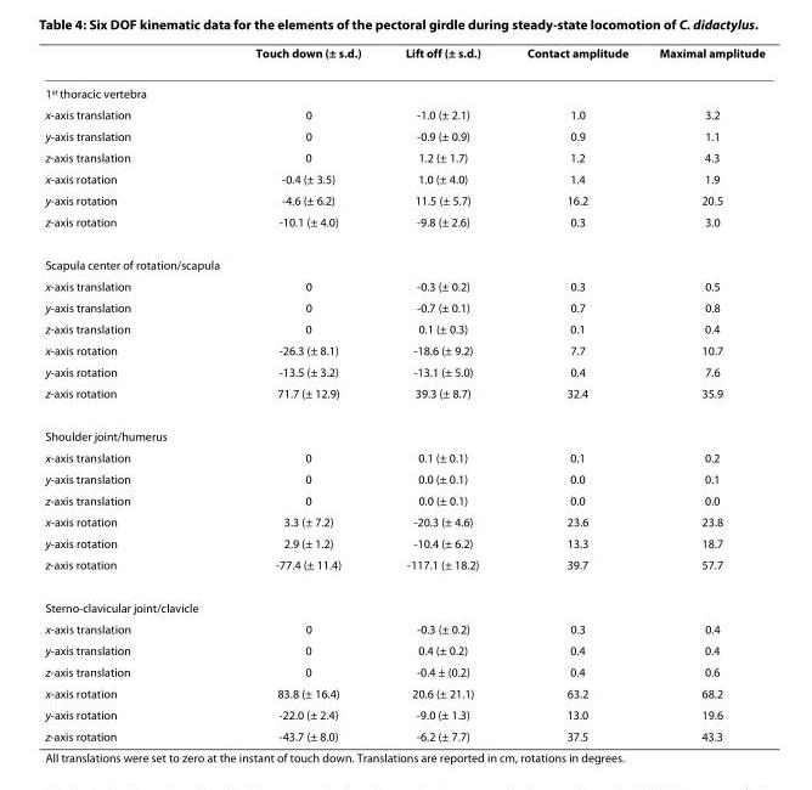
<table><thead><tr><td></td><td>Touch down (± s.d.)</td><td>Lift off (± s.d.)</td><td>Contact amplitude</td><td>Maximal amplitude</td></tr></thead><tbody><tr><td colspan="5">1<sup>st</sup> thoracic vertebra</td></tr><tr><td>x-axis translation</td><td>0</td><td>-1.0 (± 2.1)</td><td>1.0</td><td>3.2</td></tr><tr><td>y-axis translation</td><td>0</td><td>-0.9 (± 0.9)</td><td>0.9</td><td>1.1</td></tr><tr><td>z-axis translation</td><td>0</td><td>1.2 (± 1.7)</td><td>1.2</td><td>4.3</td></tr><tr><td>x-axis rotation</td><td>-0.4 (± 3.5)</td><td>1.0 (± 4.0)</td><td>1.4</td><td>1.9</td></tr><tr><td>y-axis rotation</td><td>-4.6 (± 6.2)</td><td>11.5 (± 5.7)</td><td>16.2</td><td>20.5</td></tr><tr><td>z-axis rotation</td><td>-10.1 (± 4.0)</td><td>-9.8 (± 2.6)</td><td>0.3</td><td>3.0</td></tr><tr><td colspan="5">Scapula center of rotation/scapula</td></tr><tr><td>x-axis translation</td><td>0</td><td>-0.3 (± 0.2)</td><td>0.3</td><td>0.5</td></tr><tr><td>y-axis translation</td><td>0</td><td>-0.7 (± 0.1)</td><td>0.7</td><td>0.8</td></tr><tr><td>z-axis translation</td><td>0</td><td>0.1 (± 0.3)</td><td>0.1</td><td>0.4</td></tr><tr><td>x-axis rotation</td><td>-26.3 (± 8.1)</td><td>-18.6 (± 9.2)</td><td>7.7</td><td>10.7</td></tr><tr><td>y-axis rotation</td><td>-13.5 (± 3.2)</td><td>-13.1 (± 5.0)</td><td>0.4</td><td>7.6</td></tr><tr><td>z-axis rotation</td><td>71.7 (± 12.9)</td><td>39.3 (± 8.7)</td><td>32.4</td><td>35.9</td></tr><tr><td colspan="5">Shoulder joint/humerus</td></tr><tr><td>x-axis translation</td><td>0</td><td>0.1 (± 0.1)</td><td>0.1</td><td>0.2</td></tr><tr><td>y-axis translation</td><td>0</td><td>0.0 (± 0.1)</td><td>0.0</td><td>0.1</td></tr><tr><td>z-axis translation</td><td>0</td><td>0.0 (± 0.1)</td><td>0.0</td><td>0.0</td></tr><tr><td>x-axis rotation</td><td>3.3 (± 7.2)</td><td>-20.3 (± 4.6)</td><td>23.6</td><td>23.8</td></tr><tr><td>y-axis rotation</td><td>2.9 (± 1.2)</td><td>-10.4 (± 6.2)</td><td>13.3</td><td>18.7</td></tr><tr><td>z-axis rotation</td><td>-77.4 (± 11.4)</td><td>-117.1 (± 18.2)</td><td>39.7</td><td>57.7</td></tr><tr><td colspan="5">Sterno-clavicular joint/clavicle</td></tr><tr><td>x-axis translation</td><td>0</td><td>-0.3 (± 0.2)</td><td>0.3</td><td>0.4</td></tr><tr><td>y-axis translation</td><td>0</td><td>0.4 (± 0.2)</td><td>0.4</td><td>0.4</td></tr><tr><td>z-axis translation</td><td>0</td><td>-0.4 ± (0.2)</td><td>0.4</td><td>0.6</td></tr><tr><td>x-axis rotation</td><td>83.8 (± 16.4)</td><td>20.6 (± 21.1)</td><td>63.2</td><td>68.2</td></tr><tr><td>y-axis rotation</td><td>-22.0 (± 2.4)</td><td>-9.0 (± 1.3)</td><td>13.0</td><td>19.6</td></tr><tr><td>z-axis rotation</td><td>-43.7 (± 8.0)</td><td>-6.2 (± 7.7)</td><td>37.5</td><td>43.3</td></tr></tbody></table>